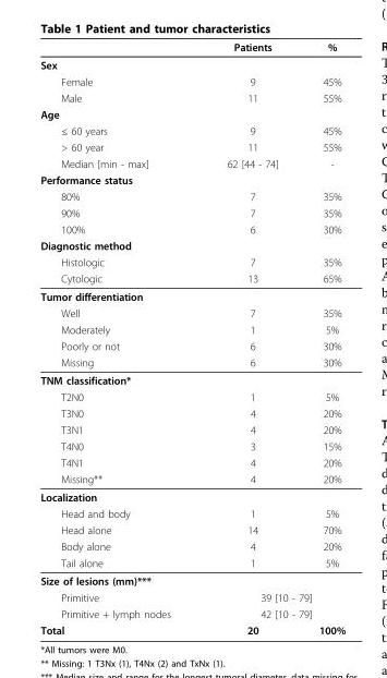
<table><thead><tr><td></td><td>Patients</td><td>%</td></tr></thead><tbody><tr><td colspan="3">Sex</td></tr><tr><td>Female</td><td>9</td><td>45%</td></tr><tr><td>Male</td><td>11</td><td>55%</td></tr><tr><td colspan="3">Age</td></tr><tr><td>≤ 60 years</td><td>9</td><td>45%</td></tr><tr><td>&gt; 60 year</td><td>11</td><td>55%</td></tr><tr><td>Median [min - max]</td><td>62 [44 - 74]</td><td>-</td></tr><tr><td colspan="3">Performance status</td></tr><tr><td>80%</td><td>7</td><td>35%</td></tr><tr><td>90%</td><td>7</td><td>35%</td></tr><tr><td>100%</td><td>6</td><td>30%</td></tr><tr><td colspan="3">Diagnostic method</td></tr><tr><td>Histologic</td><td>7</td><td>35%</td></tr><tr><td>Cytologic</td><td>13</td><td>65%</td></tr><tr><td colspan="3">Tumor differentiation</td></tr><tr><td>Well</td><td>7</td><td>35%</td></tr><tr><td>Moderately</td><td>1</td><td>5%</td></tr><tr><td>Poorly or not</td><td>6</td><td>30%</td></tr><tr><td>Missing</td><td>6</td><td>30%</td></tr><tr><td colspan="3">TNM classification*</td></tr><tr><td>T2N0</td><td>1</td><td>5%</td></tr><tr><td>T3N0</td><td>4</td><td>20%</td></tr><tr><td>T3N1</td><td>4</td><td>20%</td></tr><tr><td>T4N0</td><td>3</td><td>15%</td></tr><tr><td>T4N1</td><td>4</td><td>20%</td></tr><tr><td>Missing**</td><td>4</td><td>20%</td></tr><tr><td colspan="3">Localization</td></tr><tr><td>Head and body</td><td>1</td><td>5%</td></tr><tr><td>Head alone</td><td>14</td><td>70%</td></tr><tr><td>Body alone</td><td>4</td><td>20%</td></tr><tr><td>Tail alone</td><td>1</td><td>5%</td></tr><tr><td colspan="3">Size of lesions (mm)***</td></tr><tr><td>Primitive</td><td colspan="2">39 [10 - 79]</td></tr><tr><td>Primitive + lymph nodes</td><td colspan="2">42 [10 - 79]</td></tr><tr><td>Total</td><td>20</td><td>100%</td></tr></tbody></table>